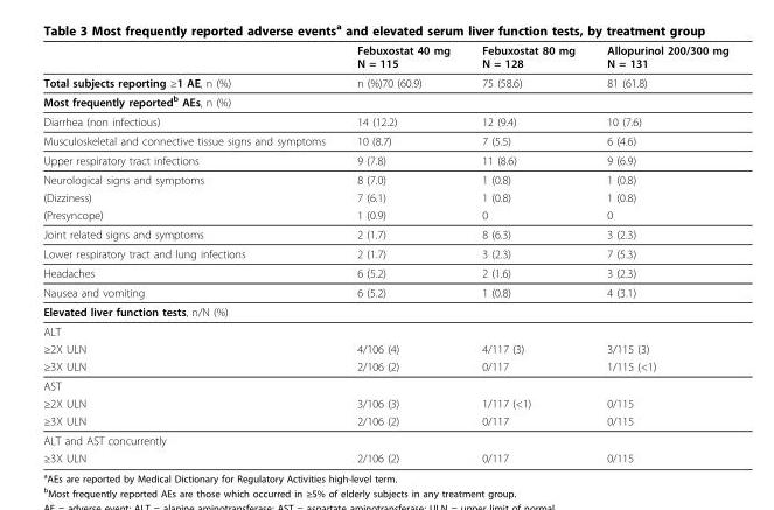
<table><thead><tr><td></td><td>Febuxostat 40 mg N = 115</td><td>Febuxostat 80 mg N = 128</td><td>Allopurinol 200/300 mg N = 131</td></tr></thead><tbody><tr><td>Total subjects reporting ≥1 AE, n (%)</td><td>n (%)70 (60.9)</td><td>75 (58.6)</td><td>81 (61.8)</td></tr><tr><td colspan="4">Most frequently reported<sup>b</sup> AEs, n (%)</td></tr><tr><td>Diarrhea (non infectious)</td><td>14 (12.2)</td><td>12 (9.4)</td><td>10 (7.6)</td></tr><tr><td>Musculoskeletal and connective tissue signs and symptoms</td><td>10 (8.7)</td><td>7 (5.5)</td><td>6 (4.6)</td></tr><tr><td>Upper respiratory tract infections</td><td>9 (7.8)</td><td>11 (8.6)</td><td>9 (6.9)</td></tr><tr><td>Neurological signs and symptoms</td><td>8 (7.0)</td><td>1 (0.8)</td><td>1 (0.8)</td></tr><tr><td>(Dizziness)</td><td>7 (6.1)</td><td>1 (0.8)</td><td>1 (0.8)</td></tr><tr><td>(Presyncope)</td><td>1 (0.9)</td><td>0</td><td>0</td></tr><tr><td>Joint related signs and symptoms</td><td>2 (1.7)</td><td>8 (6.3)</td><td>3 (2.3)</td></tr><tr><td>Lower respiratory tract and lung infections</td><td>2 (1.7)</td><td>3 (2.3)</td><td>7 (5.3)</td></tr><tr><td>Headaches</td><td>6 (5.2)</td><td>2 (1.6)</td><td>3 (2.3)</td></tr><tr><td>Nausea and vomiting</td><td>6 (5.2)</td><td>1 (0.8)</td><td>4 (3.1)</td></tr><tr><td colspan="4">Elevated liver function tests, n/N (%)</td></tr><tr><td colspan="4">ALT</td></tr><tr><td>≥2X ULN</td><td>4/106 (4)</td><td>4/117 (3)</td><td>3/115 (3)</td></tr><tr><td>≥3X ULN</td><td>2/106 (2)</td><td>0/117</td><td>1/115 (&lt;1)</td></tr><tr><td colspan="4">AST</td></tr><tr><td>≥2X ULN</td><td>3/106 (3)</td><td>1/117 (&lt;1)</td><td>0/115</td></tr><tr><td>≥3X ULN</td><td>2/106 (2)</td><td>0/117</td><td>0/115</td></tr><tr><td colspan="4">ALT and AST concurrently</td></tr><tr><td>≥3X ULN</td><td>2/106 (2)</td><td>0/117</td><td>0/115</td></tr></tbody></table>